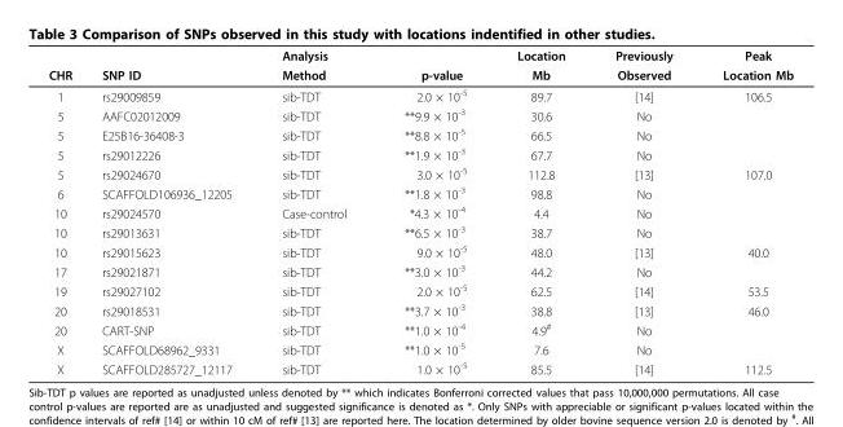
<table><thead><tr><td rowspan="2">CHR</td><td rowspan="2">SNP ID</td><td rowspan="2">Analysis Method</td><td rowspan="2">p-value</td><td rowspan="2">Location Mb</td><td rowspan="2">Previously Observed</td><td rowspan="2">Peak Location Mb</td></tr><tr></tr></thead><tbody><tr><td>1</td><td>rs29009859</td><td>sib-TDT</td><td>2.0 × 10<sup>-5</sup></td><td>89.7</td><td>[14]</td><td>106.5</td></tr><tr><td>5</td><td>AAFC02012009</td><td>sib-TDT</td><td>**9.9 × 10<sup>-3</sup></td><td>30.6</td><td>No</td><td></td></tr><tr><td>5</td><td>E25B16-36408-3</td><td>sib-TDT</td><td>**8.8 × 10<sup>-5</sup></td><td>66.5</td><td>No</td><td></td></tr><tr><td>5</td><td>rs29012226</td><td>sib-TDT</td><td>**1.9 × 10<sup>-3</sup></td><td>67.7</td><td>No</td><td></td></tr><tr><td>5</td><td>rs29024670</td><td>sib-TDT</td><td>3.0 × 10<sup>-5</sup></td><td>112.8</td><td>[13]</td><td>107.0</td></tr><tr><td>6</td><td>SCAFFOLD106936_12205</td><td>sib-TDT</td><td>**1.8 × 10<sup>-3</sup></td><td>98.8</td><td>No</td><td></td></tr><tr><td>10</td><td>rs29024570</td><td>Case-control</td><td>*4.3 × 10<sup>-4</sup></td><td>4.4</td><td>No</td><td></td></tr><tr><td>10</td><td>rs29013631</td><td>sib-TDT</td><td>**6.5 × 10<sup>-3</sup></td><td>38.7</td><td>No</td><td></td></tr><tr><td>10</td><td>rs29015623</td><td>sib-TDT</td><td>9.0 × 10<sup>-5</sup></td><td>48.0</td><td>[13]</td><td>40.0</td></tr><tr><td>17</td><td>rs29021871</td><td>sib-TDT</td><td>**3.0 × 10<sup>-3</sup></td><td>44.2</td><td>No</td><td></td></tr><tr><td>19</td><td>rs29027102</td><td>sib-TDT</td><td>2.0 × 10<sup>-5</sup></td><td>62.5</td><td>[14]</td><td>53.5</td></tr><tr><td>20</td><td>rs29018531</td><td>sib-TDT</td><td>**3.7 × 10<sup>-3</sup></td><td>38.8</td><td>[13]</td><td>46.0</td></tr><tr><td>20</td><td>CART-SNP</td><td>sib-TDT</td><td>**1.0 × 10<sup>-4</sup></td><td>4.9<sup>#</sup></td><td>No</td><td></td></tr><tr><td>X</td><td>SCAFFOLD68962_9331</td><td>sib-TDT</td><td>**1.0 × 10<sup>-5</sup></td><td>7.6</td><td>No</td><td></td></tr><tr><td>X</td><td>SCAFFOLD285727_12117</td><td>sib-TDT</td><td>1.0 × 10<sup>-5</sup></td><td>85.5</td><td>[14]</td><td>112.5</td></tr></tbody></table>